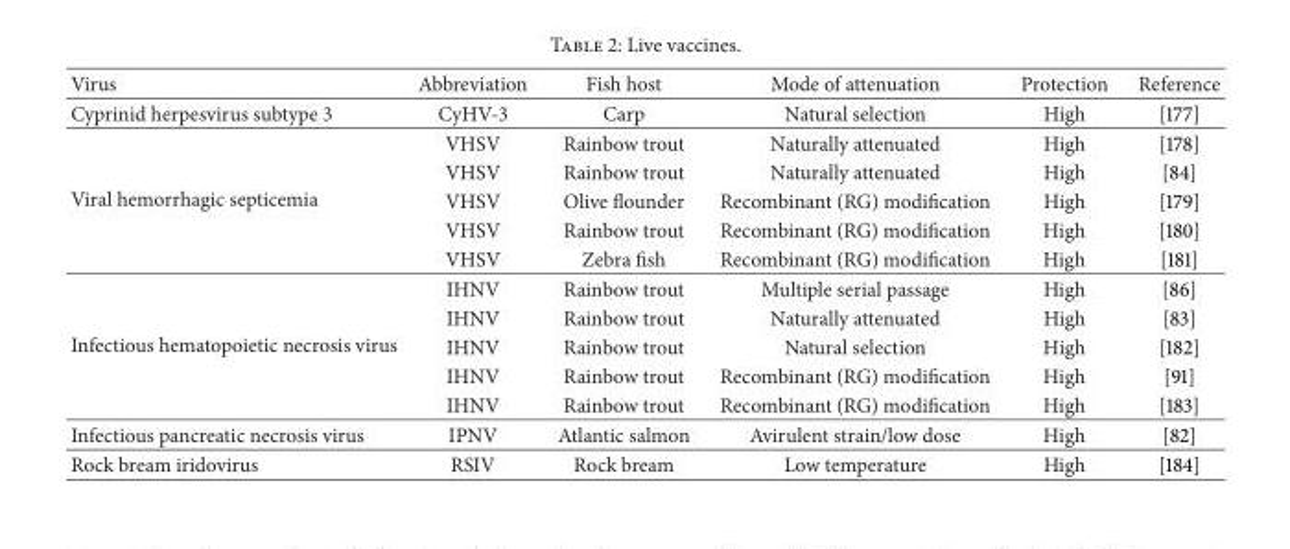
<table><thead><tr><td>Virus</td><td>Abbreviation</td><td>Fish host</td><td>Mode of attenuation</td><td>Protection</td><td>Reference</td></tr></thead><tbody><tr><td>Cyprinid herpesvirus subtype 3</td><td>CyHV-3</td><td>Carp</td><td>Natural selection</td><td>High</td><td>[177]</td></tr><tr><td rowspan="5">Viral hemorrhagic septicemia</td><td>VHSV</td><td>Rainbow trout</td><td>Naturally attenuated</td><td>High</td><td>[178]</td></tr><tr><td>VHSV</td><td>Rainbow trout</td><td>Naturally attenuated</td><td>High</td><td>[84]</td></tr><tr><td>VHSV</td><td>Olive flounder</td><td>Recombinant (RG) modification</td><td>High</td><td>[179]</td></tr><tr><td>VHSV</td><td>Rainbow trout</td><td>Recombinant (RG) modification</td><td>High</td><td>[180]</td></tr><tr><td>VHSV</td><td>Zebra fish</td><td>Recombinant (RG) modification</td><td>High</td><td>[181]</td></tr><tr><td rowspan="5">Infectious hematopoietic necrosis virus</td><td>IHNV</td><td>Rainbow trout</td><td>Multiple serial passage</td><td>High</td><td>[86]</td></tr><tr><td>IHNV</td><td>Rainbow trout</td><td>Naturally attenuated</td><td>High</td><td>[83]</td></tr><tr><td>IHNV</td><td>Rainbow trout</td><td>Natural selection</td><td>High</td><td>[182]</td></tr><tr><td>IHNV</td><td>Rainbow trout</td><td>Recombinant (RG) modification</td><td>High</td><td>[91]</td></tr><tr><td>IHNV</td><td>Rainbow trout</td><td>Recombinant (RG) modification</td><td>High</td><td>[183]</td></tr><tr><td>Infectious pancreatic necrosis virus</td><td>IPNV</td><td>Atlantic salmon</td><td>Avirulent strain/low dose</td><td>High</td><td>[82]</td></tr><tr><td>Rock bream iridovirus</td><td>RSIV</td><td>Rock bream</td><td>Low temperature</td><td>High</td><td>[184]</td></tr></tbody></table>